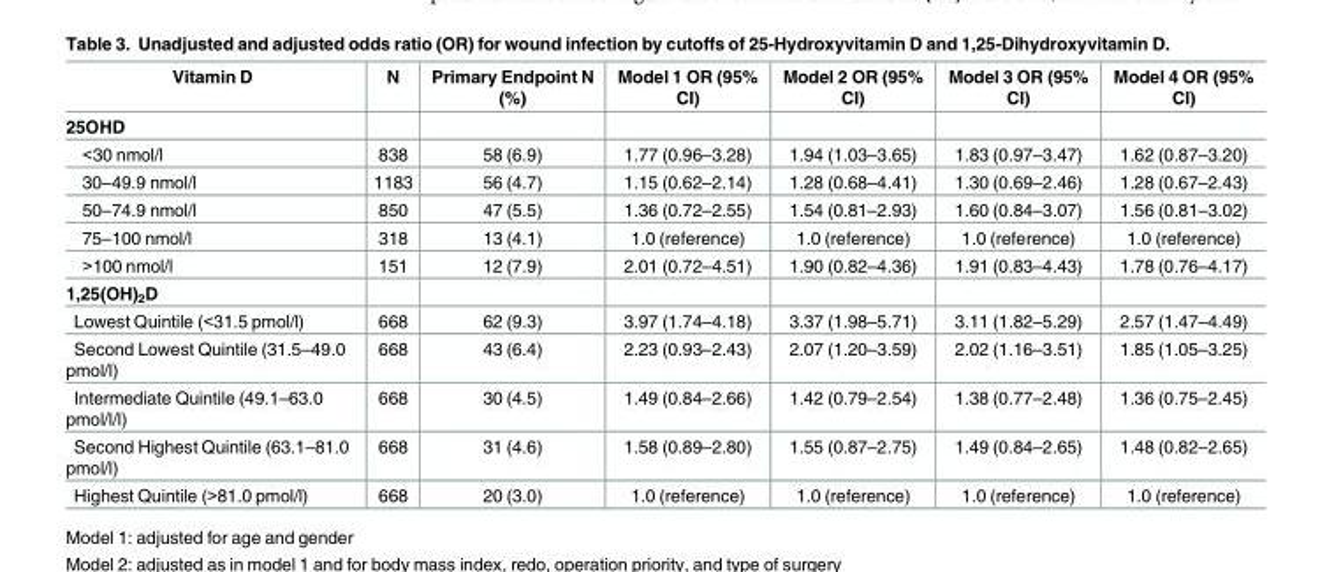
<table><thead><tr><td>Vitamin D</td><td>N</td><td>Primary Endpoint N (%)</td><td>Model 1 OR (95% CI)</td><td>Model 2 OR (95% CI)</td><td>Model 3 OR (95% CI)</td><td>Model 4 OR (95% CI)</td></tr></thead><tbody><tr><td colspan="7">25OHD</td></tr><tr><td>&lt;30 nmol/l</td><td>838</td><td>58 (6.9)</td><td>1.77 (0.96–3.28)</td><td>1.94 (1.03–3.65)</td><td>1.83 (0.97–3.47)</td><td>1.62 (0.87–3.20)</td></tr><tr><td>30–49.9 nmol/l</td><td>1183</td><td>56 (4.7)</td><td>1.15 (0.62–2.14)</td><td>1.28 (0.68–4.41)</td><td>1.30 (0.69–2.46)</td><td>1.28 (0.67–2.43)</td></tr><tr><td>50–74.9 nmol/l</td><td>850</td><td>47 (5.5)</td><td>1.36 (0.72–2.55)</td><td>1.54 (0.81–2.93)</td><td>1.60 (0.84–3.07)</td><td>1.56 (0.81–3.02)</td></tr><tr><td>75–100 nmol/l</td><td>318</td><td>13 (4.1)</td><td>1.0 (reference)</td><td>1.0 (reference)</td><td>1.0 (reference)</td><td>1.0 (reference)</td></tr><tr><td>&gt;100 nmol/l</td><td>151</td><td>12 (7.9)</td><td>2.01 (0.72–4.51)</td><td>1.90 (0.82–4.36)</td><td>1.91 (0.83–4.43)</td><td>1.78 (0.76–4.17)</td></tr><tr><td colspan="7">1,25(OH)<sub>2</sub>D</td></tr><tr><td>Lowest Quintile (&lt;31.5 pmol/l)</td><td>668</td><td>62 (9.3)</td><td>3.97 (1.74–4.18)</td><td>3.37 (1.98–5.71)</td><td>3.11 (1.82–5.29)</td><td>2.57 (1.47–4.49)</td></tr><tr><td>Second Lowest Quintile (31.5–49.0 pmol/l)</td><td>668</td><td>43 (6.4)</td><td>2.23 (0.93–2.43)</td><td>2.07 (1.20–3.59)</td><td>2.02 (1.16–3.51)</td><td>1.85 (1.05–3.25)</td></tr><tr><td>Intermediate Quintile (49.1–63.0 pmol/l/l)</td><td>668</td><td>30 (4.5)</td><td>1.49 (0.84–2.66)</td><td>1.42 (0.79–2.54)</td><td>1.38 (0.77–2.48)</td><td>1.36 (0.75–2.45)</td></tr><tr><td>Second Highest Quintile (63.1–81.0 pmol/l)</td><td>668</td><td>31 (4.6)</td><td>1.58 (0.89–2.80)</td><td>1.55 (0.87–2.75)</td><td>1.49 (0.84–2.65)</td><td>1.48 (0.82–2.65)</td></tr><tr><td>Highest Quintile (&gt;81.0 pmol/l)</td><td>668</td><td>20 (3.0)</td><td>1.0 (reference)</td><td>1.0 (reference)</td><td>1.0 (reference)</td><td>1.0 (reference)</td></tr></tbody></table>